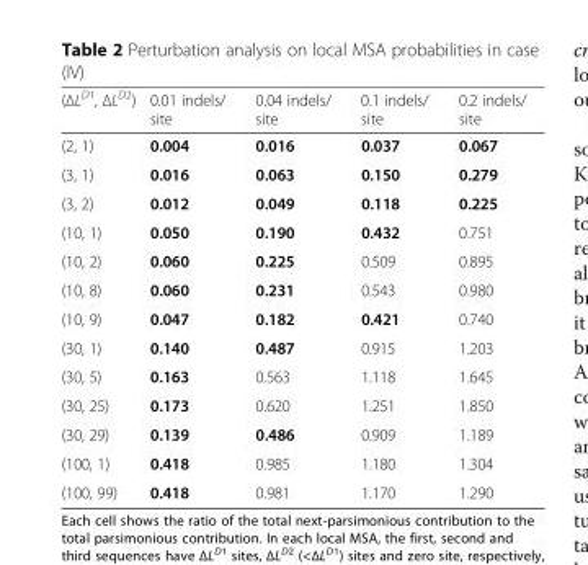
<table><thead><tr><td>(IV) (ΔLD1, ΔLD2)</td><td>0.01 indels/ site</td><td>0.04 indels/ site</td><td>0.1 indels/ site</td><td>0.2 indels/ site</td></tr></thead><tbody><tr><td>(2, 1)</td><td>0.004</td><td>0.016</td><td>0.037</td><td>0.067</td></tr><tr><td>(3, 1)</td><td>0.016</td><td>0.063</td><td>0.150</td><td>0.279</td></tr><tr><td>(3, 2)</td><td>0.012</td><td>0.049</td><td>0.118</td><td>0.225</td></tr><tr><td>(10, 1)</td><td>0.050</td><td>0.190</td><td>0.432</td><td>0.751</td></tr><tr><td>(10, 2)</td><td>0.060</td><td>0.225</td><td>0.509</td><td>0.895</td></tr><tr><td>(10, 8)</td><td>0.060</td><td>0.231</td><td>0.543</td><td>0.980</td></tr><tr><td>(10, 9)</td><td>0.047</td><td>0.182</td><td>0.421</td><td>0.740</td></tr><tr><td>(30, 1)</td><td>0.140</td><td>0.487</td><td>0.915</td><td>1.203</td></tr><tr><td>(30, 5)</td><td>0.163</td><td>0.563</td><td>1.118</td><td>1.645</td></tr><tr><td>(30, 25)</td><td>0.173</td><td>0.620</td><td>1.251</td><td>1.850</td></tr><tr><td>(30, 29)</td><td>0.139</td><td>0.486</td><td>0.909</td><td>1.189</td></tr><tr><td>(100, 1)</td><td>0.418</td><td>0.985</td><td>1.180</td><td>1.304</td></tr><tr><td>(100, 99)</td><td>0.418</td><td>0.981</td><td>1.170</td><td>1.290</td></tr></tbody></table>